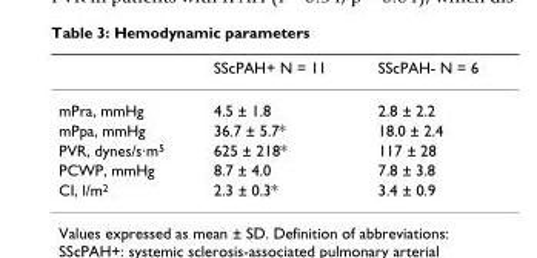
<table><thead><tr><td></td><td>SScPAH+ N = 11</td><td>SScPAH- N = 6</td></tr></thead><tbody><tr><td>mPra, mmHg</td><td>4.5 ± 1.8</td><td>2.8 ± 2.2</td></tr><tr><td>mPpa, mmHg</td><td>36.7 ± 5.7*</td><td>18.0 ± 2.4</td></tr><tr><td>PVR, dynes/s·m<sup>5</sup></td><td>625 ± 218*</td><td>117 ± 28</td></tr><tr><td>PCWP, mmHg</td><td>8.7 ± 4.0</td><td>7.8 ± 3.8</td></tr><tr><td>CI, l/m<sup>2</sup></td><td>2.3 ± 0.3*</td><td>3.4 ± 0.9</td></tr></tbody></table>